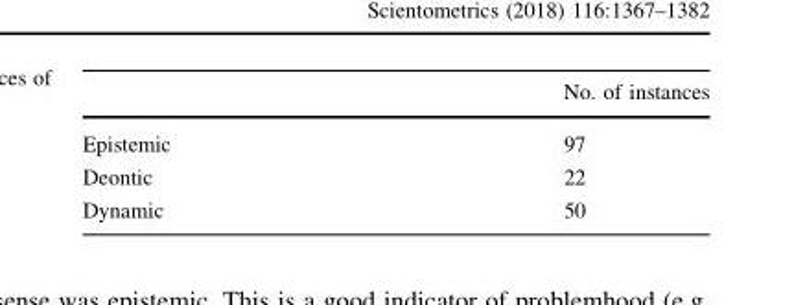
<table><thead><tr><td></td><td>No. of instances</td></tr></thead><tbody><tr><td>Epistemic</td><td>97</td></tr><tr><td>Deontic</td><td>22</td></tr><tr><td>Dynamic</td><td>50</td></tr></tbody></table>